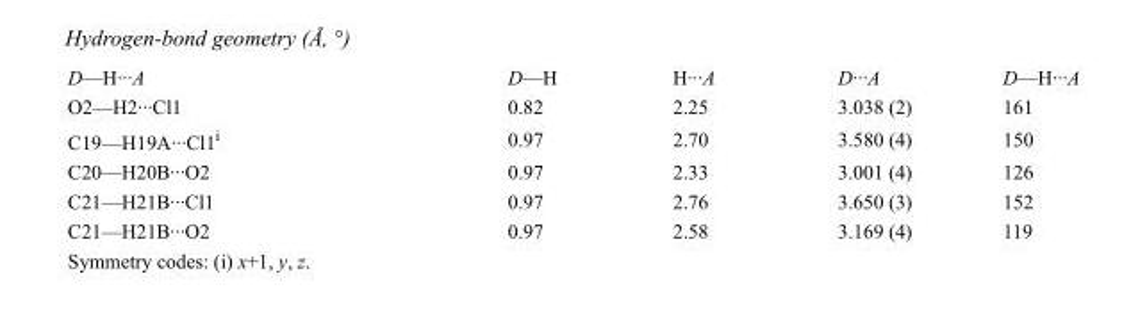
<table><tbody><tr><td>D—H···A</td><td>D—H</td><td>H···A</td><td>D···A</td><td>D—H···A</td></tr><tr><td>O2—H2···Cl1</td><td>0.82</td><td>2.25</td><td>3.038 (2)</td><td>161</td></tr><tr><td>C19—H19A···Cl1<sup>i</sup></td><td>0.97</td><td>2.70</td><td>3.580 (4)</td><td>150</td></tr><tr><td>C20—H20B···O2</td><td>0.97</td><td>2.33</td><td>3.001 (4)</td><td>126</td></tr><tr><td>C21—H21B···Cl1</td><td>0.97</td><td>2.76</td><td>3.650 (3)</td><td>152</td></tr><tr><td>C21—H21B···O2</td><td>0.97</td><td>2.58</td><td>3.169 (4)</td><td>119</td></tr></tbody></table>